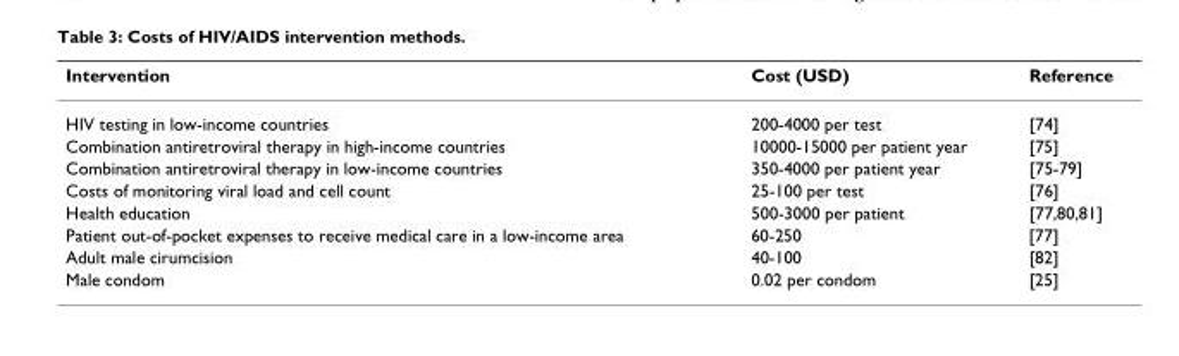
<table><thead><tr><td>Intervention</td><td>Cost (USD)</td><td>Reference</td></tr></thead><tbody><tr><td>HIV testing in low-income countries</td><td>200-4000 per test</td><td>[74]</td></tr><tr><td>Combination antiretroviral therapy in high-income countries</td><td>10000-15000 per patient year</td><td>[75]</td></tr><tr><td>Combination antiretroviral therapy in low-income countries</td><td>350-4000 per patient year</td><td>[75-79]</td></tr><tr><td>Costs of monitoring viral load and cell count</td><td>25-100 per test</td><td>[76]</td></tr><tr><td>Health education</td><td>500-3000 per patient</td><td>[77,80,81]</td></tr><tr><td>Patient out-of-pocket expenses to receive medical care in a low-income area</td><td>60-250</td><td>[77]</td></tr><tr><td>Adult male cirumcision</td><td>40-100</td><td>[82]</td></tr><tr><td>Male condom</td><td>0.02 per condom</td><td>[25]</td></tr></tbody></table>